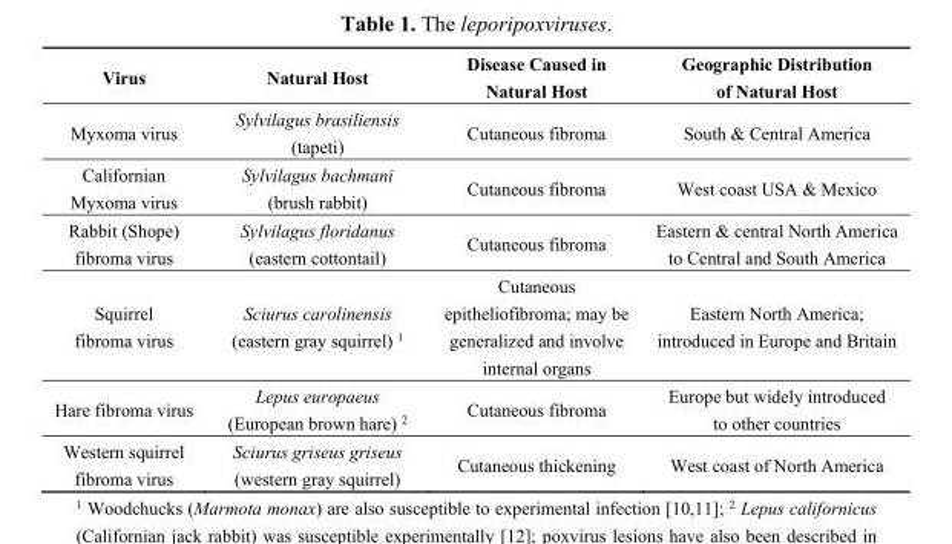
<table><thead><tr><td>Virus</td><td>Natural Host</td><td>Disease Caused in Natural Host</td><td>Geographic Distribution of Natural Host</td></tr></thead><tbody><tr><td>Myxoma virus</td><td>Sylvilagus brasiliensis (tapeti)</td><td>Cutaneous fibroma</td><td>South &amp; Central America</td></tr><tr><td>Californian Myxoma virus</td><td>Sylvilagus bachmani (brush rabbit)</td><td>Cutaneous fibroma</td><td>West coast USA &amp; Mexico</td></tr><tr><td>Rabbit (Shope) fibroma virus</td><td>Sylvilagus floridanus (eastern cottontail)</td><td>Cutaneous fibroma</td><td>Eastern &amp; central North America to Central and South America</td></tr><tr><td>Squirrel fibroma virus</td><td>Sciurus carolinensis (eastern gray squirrel) <sup>1</sup></td><td>Cutaneous epitheliofibroma; may be generalized and involve internal organs</td><td>Eastern North America; introduced in Europe and Britain</td></tr><tr><td>Hare fibroma virus</td><td>Lepus europaeus (European brown hare) <sup>2</sup></td><td>Cutaneous fibroma</td><td>Europe but widely introduced to other countries</td></tr><tr><td>Western squirrel fibroma virus</td><td>Sciurus griseus griseus (western gray squirrel)</td><td>Cutaneous thickening</td><td>West coast of North America</td></tr></tbody></table>